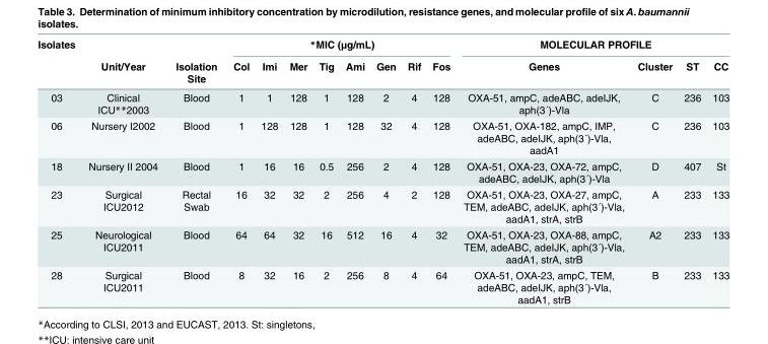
<table><thead><tr><td rowspan="2">Isolates</td><td rowspan="2">Unit/Year</td><td rowspan="2">Isolation Site</td><td colspan="8">*MIC (μg/mL)</td><td colspan="4">MOLECULAR PROFILE</td></tr><tr><td>Col</td><td>Imi</td><td>Mer</td><td>Tig</td><td>Ami</td><td>Gen</td><td>Rif</td><td>Fos</td><td>Genes</td><td>Cluster</td><td>ST</td><td>CC</td></tr></thead><tbody><tr><td>03</td><td>Clinical ICU**2003</td><td>Blood</td><td>1</td><td>1</td><td>128</td><td>1</td><td>128</td><td>2</td><td>4</td><td>128</td><td>OXA-51, ampC, adeABC, adeIJK, aph(3´)-Vla</td><td>C</td><td>236</td><td>103</td></tr><tr><td>06</td><td>Nursery I2002</td><td>Blood</td><td>1</td><td>128</td><td>128</td><td>1</td><td>128</td><td>32</td><td>4</td><td>128</td><td>OXA-51, OXA-182, ampC, IMP, adeABC, adeIJK, aph(3´)-Vla, aadA1</td><td>C</td><td>236</td><td>103</td></tr><tr><td>18</td><td>Nursery II 2004</td><td>Blood</td><td>1</td><td>16</td><td>16</td><td>0.5</td><td>256</td><td>2</td><td>4</td><td>128</td><td>OXA-51, OXA-23, OXA-72, ampC, adeABC, adeIJK, aph(3´)-Vla</td><td>D</td><td>407</td><td>St</td></tr><tr><td>23</td><td>Surgical ICU2012</td><td>Rectal Swab</td><td>16</td><td>32</td><td>32</td><td>2</td><td>256</td><td>4</td><td>2</td><td>128</td><td>OXA-51, OXA-23, OXA-27, ampC, TEM, adeABC, adeIJK, aph(3´)-Vla, aadA1, strA, strB</td><td>A</td><td>233</td><td>133</td></tr><tr><td>25</td><td>Neurological ICU2011</td><td>Blood</td><td>64</td><td>64</td><td>32</td><td>16</td><td>512</td><td>16</td><td>4</td><td>32</td><td>OXA-51, OXA-23, OXA-88, ampC, TEM, adeABC, adeIJK, aph(3´)-Vla, aadA1, strA, strB</td><td>A2</td><td>233</td><td>133</td></tr><tr><td>28</td><td>Surgical ICU2011</td><td>Blood</td><td>8</td><td>32</td><td>16</td><td>2</td><td>256</td><td>8</td><td>4</td><td>64</td><td>OXA-51, OXA-23, ampC, TEM, adeABC, adeIJK, aph(3´)-Vla, aadA1, strB</td><td>B</td><td>233</td><td>133</td></tr></tbody></table>